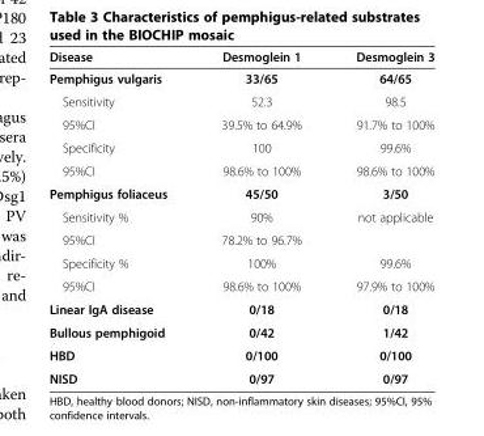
<table><thead><tr><td>Disease</td><td>Desmoglein 1</td><td>Desmoglein 3</td></tr></thead><tbody><tr><td>Pemphigus vulgaris</td><td>33/65</td><td>64/65</td></tr><tr><td>Sensitivity</td><td>52.3</td><td>98.5</td></tr><tr><td>95%CI</td><td>39.5% to 64.9%</td><td>91.7% to 100%</td></tr><tr><td>Specificity</td><td>100</td><td>99.6%</td></tr><tr><td>95%CI</td><td>98.6% to 100%</td><td>98.6% to 100%</td></tr><tr><td>Pemphigus foliaceus</td><td>45/50</td><td>3/50</td></tr><tr><td>Sensitivity %</td><td>90%</td><td>not applicable</td></tr><tr><td>95%CI</td><td>78.2% to 96.7%</td><td></td></tr><tr><td>Specificity %</td><td>100%</td><td>99.6%</td></tr><tr><td>95%CI</td><td>98.6% to 100%</td><td>97.9% to 100%</td></tr><tr><td>Linear IgA disease</td><td>0/18</td><td>0/18</td></tr><tr><td>Bullous pemphigoid</td><td>0/42</td><td>1/42</td></tr><tr><td>HBD</td><td>0/100</td><td>0/100</td></tr><tr><td>NISD</td><td>0/97</td><td>0/97</td></tr></tbody></table>